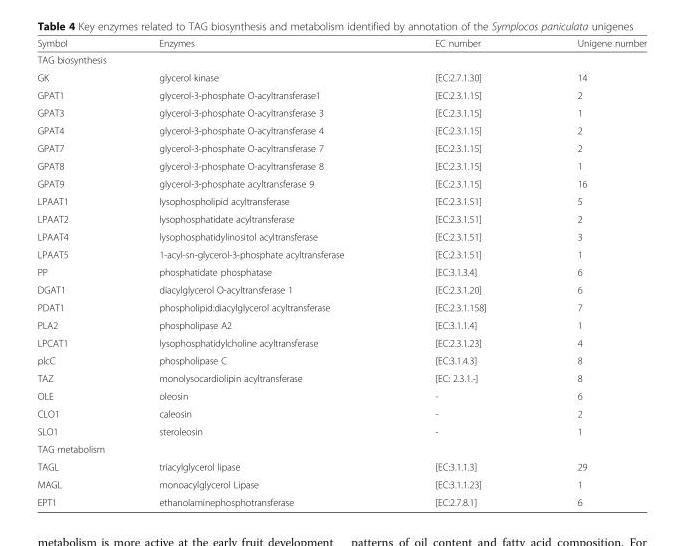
<table><thead><tr><td>Symbol</td><td>Enzymes</td><td>EC number</td><td>Unigene number</td></tr></thead><tbody><tr><td colspan="4">TAG biosynthesis</td></tr><tr><td>GK</td><td>glycerol kinase</td><td>[EC:2.7.1.30]</td><td>14</td></tr><tr><td>GPAT1</td><td>glycerol-3-phosphate O-acyltransferase1</td><td>[EC:2.3.1.15]</td><td>2</td></tr><tr><td>GPAT3</td><td>glycerol-3-phosphate O-acyltransferase 3</td><td>[EC:2.3.1.15]</td><td>1</td></tr><tr><td>GPAT4</td><td>glycerol-3-phosphate O-acyltransferase 4</td><td>[EC:2.3.1.15]</td><td>2</td></tr><tr><td>GPAT7</td><td>glycerol-3-phosphate O-acyltransferase 7</td><td>[EC:2.3.1.15]</td><td>2</td></tr><tr><td>GPAT8</td><td>glycerol-3-phosphate O-acyltransferase 8</td><td>[EC:2.3.1.15]</td><td>1</td></tr><tr><td>GPAT9</td><td>glycerol-3-phosphate acyltransferase 9</td><td>[EC:2.3.1.15]</td><td>16</td></tr><tr><td>LPAAT1</td><td>lysophospholipid acyltransferase</td><td>[EC:2.3.1.51]</td><td>5</td></tr><tr><td>LPAAT2</td><td>lysophosphatidate acyltransferase</td><td>[EC:2.3.1.51]</td><td>2</td></tr><tr><td>LPAAT4</td><td>lysophosphatidylinositol acyltransferase</td><td>[EC:2.3.1.51]</td><td>3</td></tr><tr><td>LPAAT5</td><td>1-acyl-sn-glycerol-3-phosphate acyltransferase</td><td>[EC:2.3.1.51]</td><td>1</td></tr><tr><td>PP</td><td>phosphatidate phosphatase</td><td>[EC:3.1.3.4]</td><td>6</td></tr><tr><td>DGAT1</td><td>diacylglycerol O-acyltransferase 1</td><td>[EC:2.3.1.20]</td><td>6</td></tr><tr><td>PDAT1</td><td>phospholipid:diacylglycerol acyltransferase</td><td>[EC:2.3.1.158]</td><td>7</td></tr><tr><td>PLA2</td><td>phospholipase A2</td><td>[EC:3.1.1.4]</td><td>1</td></tr><tr><td>LPCAT1</td><td>lysophosphatidylcholine acyltransferase</td><td>[EC:2.3.1.23]</td><td>4</td></tr><tr><td>plcC</td><td>phospholipase C</td><td>[EC:3.1.4.3]</td><td>8</td></tr><tr><td>TAZ</td><td>monolysocardiolipin acyltransferase</td><td>[EC: 2.3.1.-]</td><td>8</td></tr><tr><td>OLE</td><td>oleosin</td><td>-</td><td>6</td></tr><tr><td>CLO1</td><td>caleosin</td><td>-</td><td>2</td></tr><tr><td>SLO1</td><td>steroleosin</td><td>-</td><td>1</td></tr><tr><td colspan="4">TAG metabolism</td></tr><tr><td>TAGL</td><td>triacylglycerol lipase</td><td>[EC:3.1.1.3]</td><td>29</td></tr><tr><td>MAGL</td><td>monoacylglycerol Lipase</td><td>[EC:3.1.1.23]</td><td>1</td></tr><tr><td>EPT1</td><td>ethanolaminephosphotransferase</td><td>[EC:2.7.8.1]</td><td>6</td></tr></tbody></table>